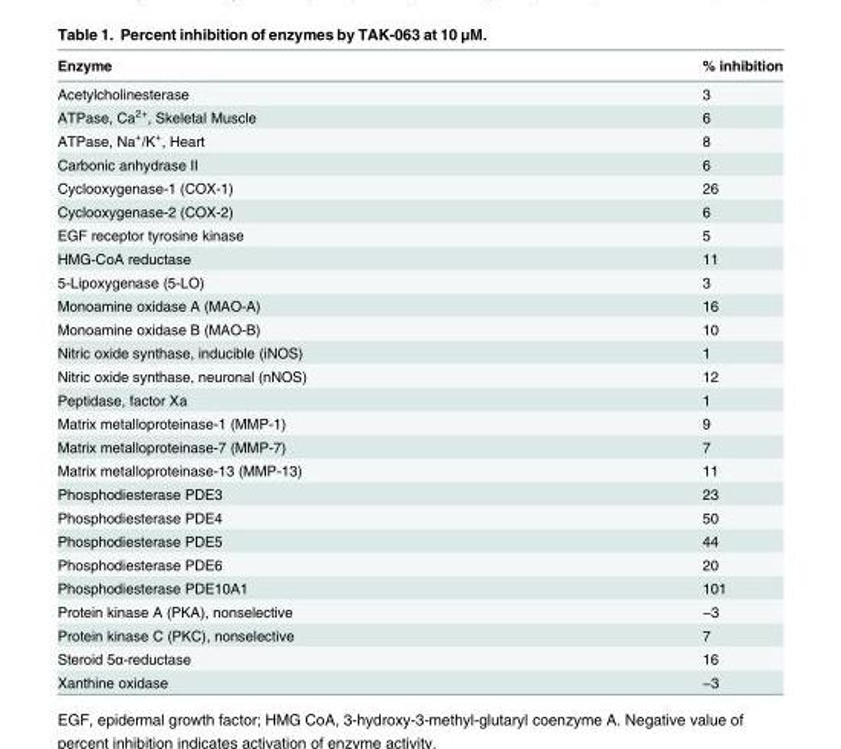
<table><thead><tr><td>Enzyme</td><td>% inhibition</td></tr></thead><tbody><tr><td>Acetylcholinesterase</td><td>3</td></tr><tr><td>ATPase, Ca<sup>2+</sup>, Skeletal Muscle</td><td>6</td></tr><tr><td>ATPase, Na<sup>+</sup>/K<sup>+</sup>, Heart</td><td>8</td></tr><tr><td>Carbonic anhydrase II</td><td>6</td></tr><tr><td>Cyclooxygenase-1 (COX-1)</td><td>26</td></tr><tr><td>Cyclooxygenase-2 (COX-2)</td><td>6</td></tr><tr><td>EGF receptor tyrosine kinase</td><td>5</td></tr><tr><td>HMG-CoA reductase</td><td>11</td></tr><tr><td>5-Lipoxygenase (5-LO)</td><td>3</td></tr><tr><td>Monoamine oxidase A (MAO-A)</td><td>16</td></tr><tr><td>Monoamine oxidase B (MAO-B)</td><td>10</td></tr><tr><td>Nitric oxide synthase, inducible (iNOS)</td><td>1</td></tr><tr><td>Nitric oxide synthase, neuronal (nNOS)</td><td>12</td></tr><tr><td>Peptidase, factor Xa</td><td>1</td></tr><tr><td>Matrix metalloproteinase-1 (MMP-1)</td><td>9</td></tr><tr><td>Matrix metalloproteinase-7 (MMP-7)</td><td>7</td></tr><tr><td>Matrix metalloproteinase-13 (MMP-13)</td><td>11</td></tr><tr><td>Phosphodiesterase PDE3</td><td>23</td></tr><tr><td>Phosphodiesterase PDE4</td><td>50</td></tr><tr><td>Phosphodiesterase PDE5</td><td>44</td></tr><tr><td>Phosphodiesterase PDE6</td><td>20</td></tr><tr><td>Phosphodiesterase PDE10A1</td><td>101</td></tr><tr><td>Protein kinase A (PKA), nonselective</td><td>−3</td></tr><tr><td>Protein kinase C (PKC), nonselective</td><td>7</td></tr><tr><td>Steroid 5α-reductase</td><td>16</td></tr><tr><td>Xanthine oxidase</td><td>−3</td></tr></tbody></table>